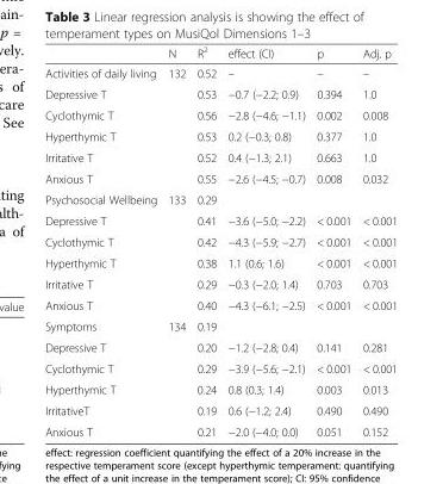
<table><thead><tr><td></td><td>N</td><td>R<sup>2</sup></td><td>effect (CI)</td><td>p</td><td>Adj. p</td></tr></thead><tbody><tr><td>Activities of daily living</td><td>132</td><td>0.52</td><td>–</td><td>–</td><td>–</td></tr><tr><td>Depressive T</td><td></td><td>0.53</td><td>−0.7 (−2.2; 0.9)</td><td>0.394</td><td>1.0</td></tr><tr><td>Cyclothymic T</td><td></td><td>0.56</td><td>−2.8 (−4.6; −1.1)</td><td>0.002</td><td>0.008</td></tr><tr><td>Hyperthymic T</td><td></td><td>0.53</td><td>0.2 (−0.3; 0.8)</td><td>0.377</td><td>1.0</td></tr><tr><td>Irritative T</td><td></td><td>0.52</td><td>0.4 (−1.3; 2.1)</td><td>0.663</td><td>1.0</td></tr><tr><td>Anxious T</td><td></td><td>0.55</td><td>−2.6 (−4.5; −0.7)</td><td>0.008</td><td>0.032</td></tr><tr><td>Psychosocial Wellbeing</td><td>133</td><td>0.29</td><td></td><td></td><td></td></tr><tr><td>Depressive T</td><td></td><td>0.41</td><td>−3.6 (−5.0; −2.2)</td><td>&lt; 0.001</td><td>&lt; 0.001</td></tr><tr><td>Cyclothymic T</td><td></td><td>0.42</td><td>−4.3 (−5.9; −2.7)</td><td>&lt; 0.001</td><td>&lt; 0.001</td></tr><tr><td>Hyperthymic T</td><td></td><td>0.38</td><td>1.1 (0.6; 1.6)</td><td>&lt; 0.001</td><td>&lt; 0.001</td></tr><tr><td>Irritative T</td><td></td><td>0.29</td><td>−0.3 (−2.0; 1.4)</td><td>0.703</td><td>0.703</td></tr><tr><td>Anxious T</td><td></td><td>0.40</td><td>−4.3 (−6.1; −2.5)</td><td>&lt; 0.001</td><td>&lt; 0.001</td></tr><tr><td>Symptoms</td><td>134</td><td>0.19</td><td></td><td></td><td></td></tr><tr><td>Depressive T</td><td></td><td>0.20</td><td>−1.2 (−2.8; 0.4)</td><td>0.141</td><td>0.281</td></tr><tr><td>Cyclothymic T</td><td></td><td>0.29</td><td>−3.9 (−5.6; −2.1)</td><td>&lt; 0.001</td><td>&lt; 0.001</td></tr><tr><td>Hyperthymic T</td><td></td><td>0.24</td><td>0.8 (0.3; 1.4)</td><td>0.003</td><td>0.013</td></tr><tr><td>IrritativeT</td><td></td><td>0.19</td><td>0.6 (−1.2; 2.4)</td><td>0.490</td><td>0.490</td></tr><tr><td>Anxious T</td><td></td><td>0.21</td><td>−2.0 (−4.0; 0.0)</td><td>0.051</td><td>0.152</td></tr></tbody></table>